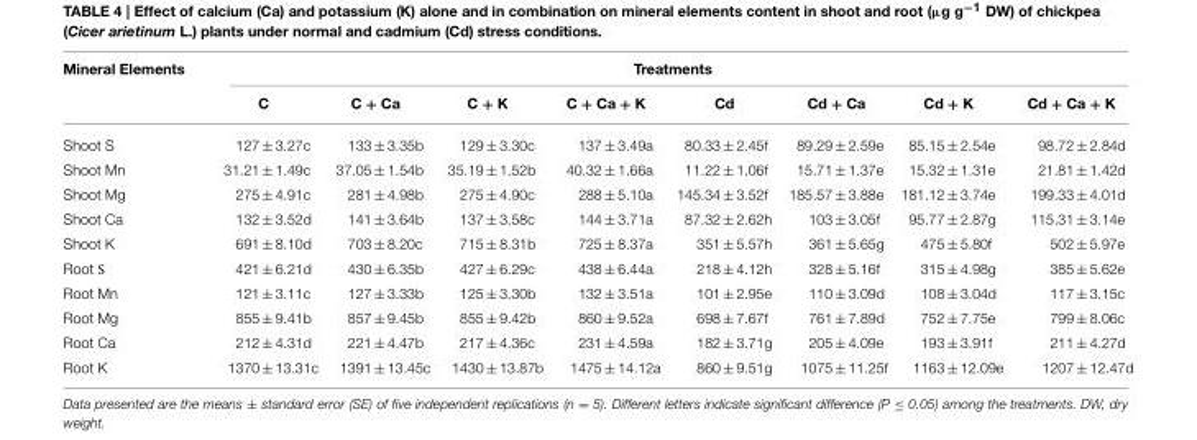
<table><thead><tr><td rowspan="2">Mineral Elements</td><td colspan="8">Treatments</td></tr><tr><td>C</td><td>C + Ca</td><td>C + K</td><td>C + Ca + K</td><td>Cd</td><td>Cd + Ca</td><td>Cd + K</td><td>Cd + Ca + K</td></tr></thead><tbody><tr><td>Shoot S</td><td>127 ± 3.27c</td><td>133 ± 3.35b</td><td>129 ± 3.30c</td><td>137 ± 3.49a</td><td>80.33 ± 2.45f</td><td>89.29 ± 2.59e</td><td>85.15 ± 2.54e</td><td>98.72 ± 2.84d</td></tr><tr><td>Shoot Mn</td><td>31.21 ± 1.49c</td><td>37.05 ± 1.54b</td><td>35.19 ± 1.52b</td><td>40.32 ± 1.66a</td><td>11.22 ± 1.06f</td><td>15.71 ± 1.37e</td><td>15.32 ± 1.31e</td><td>21.81 ± 1.42d</td></tr><tr><td>Shoot Mg</td><td>275 ± 4.91c</td><td>281 ± 4.98b</td><td>275 ± 4.90c</td><td>288 ± 5.10a</td><td>145.34 ± 3.52f</td><td>185.57 ± 3.88e</td><td>181.12 ± 3.74e</td><td>199.33 ± 4.01d</td></tr><tr><td>Shoot Ca</td><td>132 ± 3.52d</td><td>141 ± 3.64b</td><td>137 ± 3.58c</td><td>144 ± 3.71a</td><td>87.32 ± 2.62h</td><td>103 ± 3.05f</td><td>95.77 ± 2.87g</td><td>115.31 ± 3.14e</td></tr><tr><td>Shoot K</td><td>691 ± 8.10d</td><td>703 ± 8.20c</td><td>715 ± 8.31b</td><td>725 ± 8.37a</td><td>351 ± 5.57h</td><td>361 ± 5.65g</td><td>475 ± 5.80f</td><td>502 ± 5.97e</td></tr><tr><td>Root S</td><td>421 ± 6.21d</td><td>430 ± 6.35b</td><td>427 ± 6.29c</td><td>438 ± 6.44a</td><td>218 ± 4.12h</td><td>328 ± 5.16f</td><td>315 ± 4.98g</td><td>385 ± 5.62e</td></tr><tr><td>Root Mn</td><td>121 ± 3.11c</td><td>127 ± 3.33b</td><td>125 ± 3.30b</td><td>132 ± 3.51a</td><td>101 ± 2.95e</td><td>110 ± 3.09d</td><td>108 ± 3.04d</td><td>117 ± 3.15c</td></tr><tr><td>Root Mg</td><td>855 ± 9.41b</td><td>857 ± 9.45b</td><td>855 ± 9.42b</td><td>860 ± 9.52a</td><td>698 ± 7.67f</td><td>761 ± 7.89d</td><td>752 ± 7.75e</td><td>799 ± 8.06c</td></tr><tr><td>Root Ca</td><td>212 ± 4.31d</td><td>221 ± 4.47b</td><td>217 ± 4.36c</td><td>231 ± 4.59a</td><td>182 ± 3.71g</td><td>205 ± 4.09e</td><td>193 ± 3.91f</td><td>211 ± 4.27d</td></tr><tr><td>Root K</td><td>1370 ± 13.31c</td><td>1391 ± 13.45c</td><td>1430 ± 13.87b</td><td>1475 ± 14.12a</td><td>860 ± 9.51g</td><td>1075 ± 11.25f</td><td>1163 ± 12.09e</td><td>1207 ± 12.47d</td></tr></tbody></table>